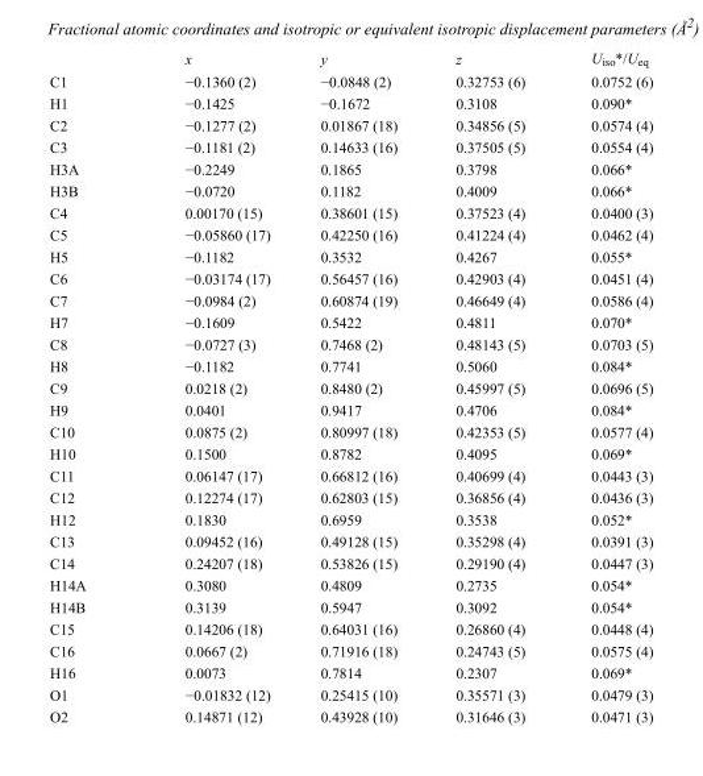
<table><thead><tr><td></td><td>x</td><td>y</td><td>z</td><td>U<sub>iso</sub>*/U<sub>eq</sub></td></tr></thead><tbody><tr><td>C1</td><td>−0.1360 (2)</td><td>−0.0848 (2)</td><td>0.32753 (6)</td><td>0.0752 (6)</td></tr><tr><td>H1</td><td>−0.1425</td><td>−0.1672</td><td>0.3108</td><td>0.090*</td></tr><tr><td>C2</td><td>−0.1277 (2)</td><td>0.01867 (18)</td><td>0.34856 (5)</td><td>0.0574 (4)</td></tr><tr><td>C3</td><td>−0.1181 (2)</td><td>0.14633 (16)</td><td>0.37505 (5)</td><td>0.0554 (4)</td></tr><tr><td>H3A</td><td>−0.2249</td><td>0.1865</td><td>0.3798</td><td>0.066*</td></tr><tr><td>H3B</td><td>−0.0720</td><td>0.1182</td><td>0.4009</td><td>0.066*</td></tr><tr><td>C4</td><td>0.00170 (15)</td><td>0.38601 (15)</td><td>0.37523 (4)</td><td>0.0400 (3)</td></tr><tr><td>C5</td><td>−0.05860 (17)</td><td>0.42250 (16)</td><td>0.41224 (4)</td><td>0.0462 (4)</td></tr><tr><td>H5</td><td>−0.1182</td><td>0.3532</td><td>0.4267</td><td>0.055*</td></tr><tr><td>C6</td><td>−0.03174 (17)</td><td>0.56457 (16)</td><td>0.42903 (4)</td><td>0.0451 (4)</td></tr><tr><td>C7</td><td>−0.0984 (2)</td><td>0.60874 (19)</td><td>0.46649 (4)</td><td>0.0586 (4)</td></tr><tr><td>H7</td><td>−0.1609</td><td>0.5422</td><td>0.4811</td><td>0.070*</td></tr><tr><td>C8</td><td>−0.0727 (3)</td><td>0.7468 (2)</td><td>0.48143 (5)</td><td>0.0703 (5)</td></tr><tr><td>H8</td><td>−0.1182</td><td>0.7741</td><td>0.5060</td><td>0.084*</td></tr><tr><td>C9</td><td>0.0218 (2)</td><td>0.8480 (2)</td><td>0.45997 (5)</td><td>0.0696 (5)</td></tr><tr><td>H9</td><td>0.0401</td><td>0.9417</td><td>0.4706</td><td>0.084*</td></tr><tr><td>C10</td><td>0.0875 (2)</td><td>0.80997 (18)</td><td>0.42353 (5)</td><td>0.0577 (4)</td></tr><tr><td>H10</td><td>0.1500</td><td>0.8782</td><td>0.4095</td><td>0.069*</td></tr><tr><td>C11</td><td>0.06147 (17)</td><td>0.66812 (16)</td><td>0.40699 (4)</td><td>0.0443 (3)</td></tr><tr><td>C12</td><td>0.12274 (17)</td><td>0.62803 (15)</td><td>0.36856 (4)</td><td>0.0436 (3)</td></tr><tr><td>H12</td><td>0.1830</td><td>0.6959</td><td>0.3538</td><td>0.052*</td></tr><tr><td>C13</td><td>0.09452 (16)</td><td>0.49128 (15)</td><td>0.35298 (4)</td><td>0.0391 (3)</td></tr><tr><td>C14</td><td>0.24207 (18)</td><td>0.53826 (15)</td><td>0.29190 (4)</td><td>0.0447 (3)</td></tr><tr><td>H14A</td><td>0.3080</td><td>0.4809</td><td>0.2735</td><td>0.054*</td></tr><tr><td>H14B</td><td>0.3139</td><td>0.5947</td><td>0.3092</td><td>0.054*</td></tr><tr><td>C15</td><td>0.14206 (18)</td><td>0.64031 (16)</td><td>0.26860 (4)</td><td>0.0448 (4)</td></tr><tr><td>C16</td><td>0.0667 (2)</td><td>0.71916 (18)</td><td>0.24743 (5)</td><td>0.0575 (4)</td></tr><tr><td>H16</td><td>0.0073</td><td>0.7814</td><td>0.2307</td><td>0.069*</td></tr><tr><td>O1</td><td>−0.01832 (12)</td><td>0.25415 (10)</td><td>0.35571 (3)</td><td>0.0479 (3)</td></tr><tr><td>O2</td><td>0.14871 (12)</td><td>0.43928 (10)</td><td>0.31646 (3)</td><td>0.0471 (3)</td></tr></tbody></table>